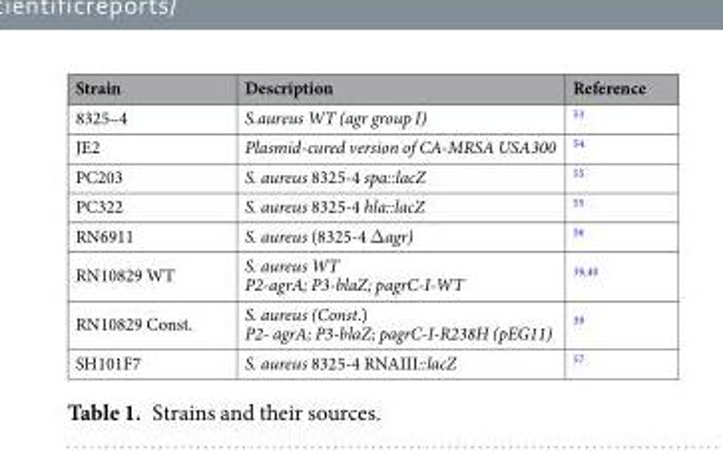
<table><thead><tr><td>Strain</td><td>Description</td><td>Reference</td></tr></thead><tbody><tr><td>8325–4</td><td>S.aureus WT (agr group I)</td><td><sup>53</sup></td></tr><tr><td>JE2</td><td>Plasmid-cured version of CA-MRSA USA300</td><td><sup>54</sup></td></tr><tr><td>PC203</td><td>S. aureus 8325-4 spa::lacZ</td><td><sup>55</sup></td></tr><tr><td>PC322</td><td>S. aureus 8325-4 hla::lacZ</td><td><sup>55</sup></td></tr><tr><td>RN6911</td><td>S. aureus (8325-4 Δagr)</td><td><sup>56</sup></td></tr><tr><td>RN10829 WT</td><td>S. aureus WT P2-agrA; P3-blaZ; pagrC-I-WT</td><td><sup>39,40</sup></td></tr><tr><td>RN10829 Const.</td><td>S. aureus (Const.) P2- agrA; P3-blaZ; pagrC-I-R238H (pEG11)</td><td><sup>39</sup></td></tr><tr><td>SH101F7</td><td>S. aureus 8325-4 RNAIII::lacZ</td><td><sup>57</sup></td></tr></tbody></table>